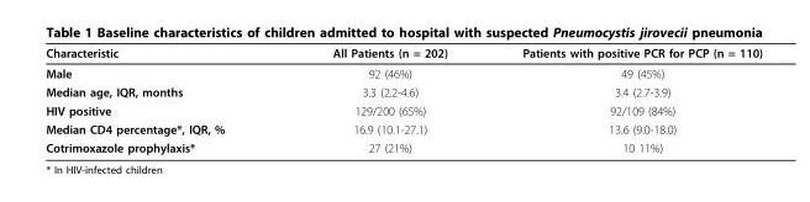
<table><thead><tr><td>Characteristic</td><td>All Patients (n = 202)</td><td>Patients with positive PCR for PCP (n = 110)</td></tr></thead><tbody><tr><td>Male</td><td>92 (46%)</td><td>49 (45%)</td></tr><tr><td>Median age, IQR, months</td><td>3.3 (2.2-4.6)</td><td>3.4 (2.7-3.9)</td></tr><tr><td>HIV positive</td><td>129/200 (65%)</td><td>92/109 (84%)</td></tr><tr><td>Median CD4 percentage*, IQR, %</td><td>16.9 (10.1-27.1)</td><td>13.6 (9.0-18.0)</td></tr><tr><td>Cotrimoxazole prophylaxis*</td><td>27 (21%)</td><td>10 11%)</td></tr></tbody></table>